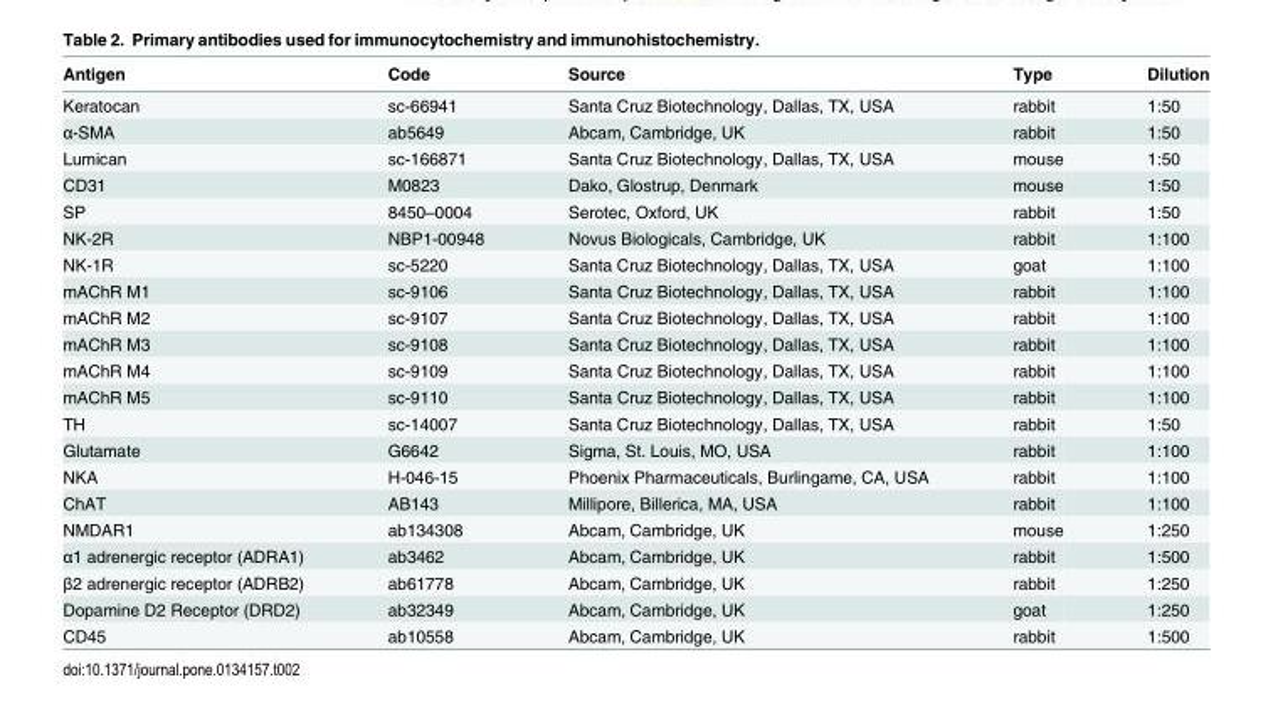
<table><thead><tr><td>Antigen</td><td>Code</td><td>Source</td><td>Type</td><td>Dilution</td></tr></thead><tbody><tr><td>Keratocan</td><td>sc-66941</td><td>Santa Cruz Biotechnology, Dallas, TX, USA</td><td>rabbit</td><td>1:50</td></tr><tr><td>α-SMA</td><td>ab5649</td><td>Abcam, Cambridge, UK</td><td>rabbit</td><td>1:50</td></tr><tr><td>Lumican</td><td>sc-166871</td><td>Santa Cruz Biotechnology, Dallas, TX, USA</td><td>mouse</td><td>1:50</td></tr><tr><td>CD31</td><td>M0823</td><td>Dako, Glostrup, Denmark</td><td>mouse</td><td>1:50</td></tr><tr><td>SP</td><td>8450–0004</td><td>Serotec, Oxford, UK</td><td>rabbit</td><td>1:50</td></tr><tr><td>NK-2R</td><td>NBP1-00948</td><td>Novus Biologicals, Cambridge, UK</td><td>rabbit</td><td>1:100</td></tr><tr><td>NK-1R</td><td>sc-5220</td><td>Santa Cruz Biotechnology, Dallas, TX, USA</td><td>goat</td><td>1:100</td></tr><tr><td>mAChR M1</td><td>sc-9106</td><td>Santa Cruz Biotechnology, Dallas, TX, USA</td><td>rabbit</td><td>1:100</td></tr><tr><td>mAChR M2</td><td>sc-9107</td><td>Santa Cruz Biotechnology, Dallas, TX, USA</td><td>rabbit</td><td>1:100</td></tr><tr><td>mAChR M3</td><td>sc-9108</td><td>Santa Cruz Biotechnology, Dallas, TX, USA</td><td>rabbit</td><td>1:100</td></tr><tr><td>mAChR M4</td><td>sc-9109</td><td>Santa Cruz Biotechnology, Dallas, TX, USA</td><td>rabbit</td><td>1:100</td></tr><tr><td>mAChR M5</td><td>sc-9110</td><td>Santa Cruz Biotechnology, Dallas, TX, USA</td><td>rabbit</td><td>1:100</td></tr><tr><td>TH</td><td>sc-14007</td><td>Santa Cruz Biotechnology, Dallas, TX, USA</td><td>rabbit</td><td>1:50</td></tr><tr><td>Glutamate</td><td>G6642</td><td>Sigma, St. Louis, MO, USA</td><td>rabbit</td><td>1:100</td></tr><tr><td>NKA</td><td>H-046-15</td><td>Phoenix Pharmaceuticals, Burlingame, CA, USA</td><td>rabbit</td><td>1:100</td></tr><tr><td>ChAT</td><td>AB143</td><td>Millipore, Billerica, MA, USA</td><td>rabbit</td><td>1:100</td></tr><tr><td>NMDAR1</td><td>ab134308</td><td>Abcam, Cambridge, UK</td><td>mouse</td><td>1:250</td></tr><tr><td>α1 adrenergic receptor (ADRA1)</td><td>ab3462</td><td>Abcam, Cambridge, UK</td><td>rabbit</td><td>1:500</td></tr><tr><td>β2 adrenergic receptor (ADRB2)</td><td>ab61778</td><td>Abcam, Cambridge, UK</td><td>rabbit</td><td>1:250</td></tr><tr><td>Dopamine D2 Receptor (DRD2)</td><td>ab32349</td><td>Abcam, Cambridge, UK</td><td>goat</td><td>1:250</td></tr><tr><td>CD45</td><td>ab10558</td><td>Abcam, Cambridge, UK</td><td>rabbit</td><td>1:500</td></tr></tbody></table>